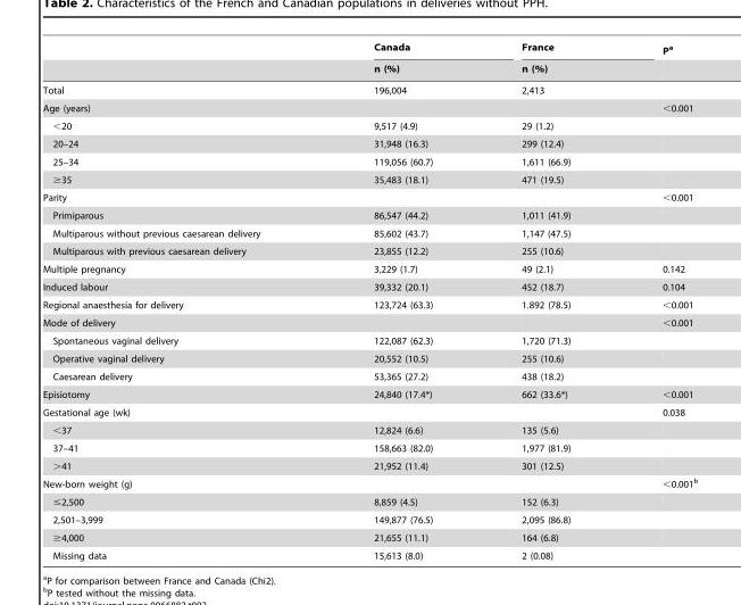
<table><thead><tr><td rowspan="2"></td><td rowspan="2">Canada n (%)</td><td rowspan="2">France n (%)</td><td rowspan="2">P<sup>a</sup></td></tr><tr></tr></thead><tbody><tr><td>Total</td><td>196,004</td><td>2,413</td><td></td></tr><tr><td>Age (years)</td><td></td><td></td><td>&lt;0.001</td></tr><tr><td>&lt;20</td><td>9,517 (4.9)</td><td>29 (1.2)</td><td></td></tr><tr><td>20–24</td><td>31,948 (16.3)</td><td>299 (12.4)</td><td></td></tr><tr><td>25–34</td><td>119,056 (60.7)</td><td>1,611 (66.9)</td><td></td></tr><tr><td>≥35</td><td>35,483 (18.1)</td><td>471 (19.5)</td><td></td></tr><tr><td>Parity</td><td></td><td></td><td>&lt;0.001</td></tr><tr><td>Primiparous</td><td>86,547 (44.2)</td><td>1,011 (41.9)</td><td></td></tr><tr><td>Multiparous without previous caesarean delivery</td><td>85,602 (43.7)</td><td>1,147 (47.5)</td><td></td></tr><tr><td>Multiparous with previous caesarean delivery</td><td>23,855 (12.2)</td><td>255 (10.6)</td><td></td></tr><tr><td>Multiple pregnancy</td><td>3,229 (1.7)</td><td>49 (2.1)</td><td>0.142</td></tr><tr><td>Induced labour</td><td>39,332 (20.1)</td><td>452 (18.7)</td><td>0.104</td></tr><tr><td>Regional anaesthesia for delivery</td><td>123,724 (63.3)</td><td>1.892 (78.5)</td><td>&lt;0.001</td></tr><tr><td>Mode of delivery</td><td></td><td></td><td>&lt;0.001</td></tr><tr><td>Spontaneous vaginal delivery</td><td>122,087 (62.3)</td><td>1,720 (71.3)</td><td></td></tr><tr><td>Operative vaginal delivery</td><td>20,552 (10.5)</td><td>255 (10.6)</td><td></td></tr><tr><td>Caesarean delivery</td><td>53,365 (27.2)</td><td>438 (18.2)</td><td></td></tr><tr><td>Episiotomy</td><td>24,840 (17.4*)</td><td>662 (33.6*)</td><td>&lt;0.001</td></tr><tr><td>Gestational age (wk)</td><td></td><td></td><td>0.038</td></tr><tr><td>&lt;37</td><td>12,824 (6.6)</td><td>135 (5.6)</td><td></td></tr><tr><td>37–41</td><td>158,663 (82.0)</td><td>1,977 (81.9)</td><td></td></tr><tr><td>&gt;41</td><td>21,952 (11.4)</td><td>301 (12.5)</td><td></td></tr><tr><td>New-born weight (g)</td><td></td><td></td><td>&lt;0.001<sup>b</sup></td></tr><tr><td>≤2,500</td><td>8,859 (4.5)</td><td>152 (6.3)</td><td></td></tr><tr><td>2,501–3,999</td><td>149,877 (76.5)</td><td>2,095 (86.8)</td><td></td></tr><tr><td>≥4,000</td><td>21,655 (11.1)</td><td>164 (6.8)</td><td></td></tr><tr><td>Missing data</td><td>15,613 (8.0)</td><td>2 (0.08)</td><td></td></tr></tbody></table>